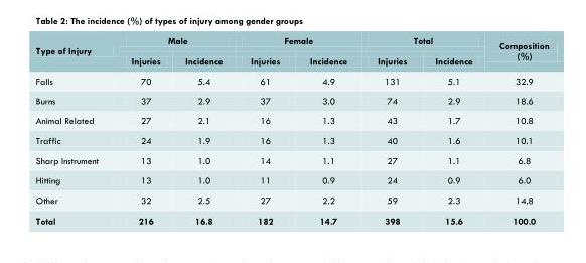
<table><thead><tr><td rowspan="2">Type of Injury</td><td colspan="2">Male</td><td colspan="2">Female</td><td colspan="2">Total</td><td rowspan="2">Composition (%)</td></tr><tr><td>Injuries</td><td>Incidence</td><td>Injuries</td><td>Incidence</td><td>Injuries</td><td>Incidence</td></tr></thead><tbody><tr><td>Falls</td><td>70</td><td>5.4</td><td>61</td><td>4.9</td><td>131</td><td>5.1</td><td>32.9</td></tr><tr><td>Burns</td><td>37</td><td>2.9</td><td>37</td><td>3.0</td><td>74</td><td>2.9</td><td>18.6</td></tr><tr><td>Animal Related</td><td>27</td><td>2.1</td><td>16</td><td>1.3</td><td>43</td><td>1.7</td><td>10.8</td></tr><tr><td>Traffic</td><td>24</td><td>1.9</td><td>16</td><td>1.3</td><td>40</td><td>1.6</td><td>10.1</td></tr><tr><td>Sharp Instrument</td><td>13</td><td>1.0</td><td>14</td><td>1.1</td><td>27</td><td>1.1</td><td>6.8</td></tr><tr><td>Hitting</td><td>13</td><td>1.0</td><td>11</td><td>0.9</td><td>24</td><td>0.9</td><td>6.0</td></tr><tr><td>Other</td><td>32</td><td>2.5</td><td>27</td><td>2.2</td><td>59</td><td>2.3</td><td>14.8</td></tr><tr><td>Total</td><td>216</td><td>16.8</td><td>182</td><td>14.7</td><td>398</td><td>15.6</td><td>100.0</td></tr></tbody></table>